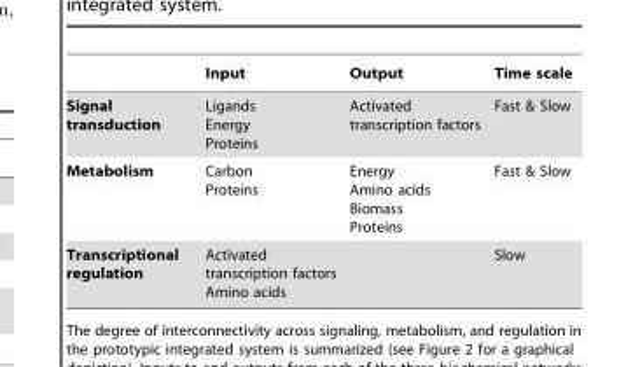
<table><thead><tr><td></td><td>Input</td><td>Output</td><td>Time scale</td></tr></thead><tbody><tr><td>Signal transduction</td><td>Ligands Energy Proteins</td><td>Activated transcription factors</td><td>Fast &amp; Slow</td></tr><tr><td>Metabolism</td><td>Carbon Proteins</td><td>Energy Amino acids Biomass Proteins</td><td>Fast &amp; Slow</td></tr><tr><td>Transcriptional regulation</td><td>Activated transcription factors Amino acids</td><td></td><td>Slow</td></tr></tbody></table>